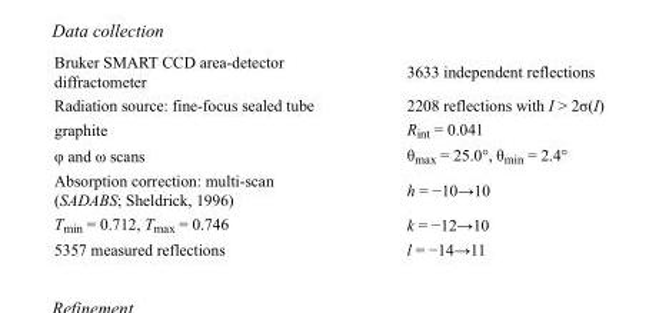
<table><tbody><tr><td>Bruker SMART CCD area-detector diffractometer</td><td>3633 independent reflections</td></tr><tr><td>Radiation source: fine-focus sealed tube</td><td>2208 reflections with I &gt; 2σ(I)</td></tr><tr><td>graphite</td><td>R<sub>int</sub> = 0.041</td></tr><tr><td>φ and ω scans</td><td>θ<sub>max</sub> = 25.0°, θ<sub>min</sub> = 2.4°</td></tr><tr><td>Absorption correction: multi-scan (SADABS; Sheldrick, 1996)</td><td>h = −10→10</td></tr><tr><td>T<sub>min</sub> = 0.712, T<sub>max</sub> = 0.746</td><td>k = −12→10</td></tr><tr><td>5357 measured reflections</td><td>l = −14→11</td></tr></tbody></table>